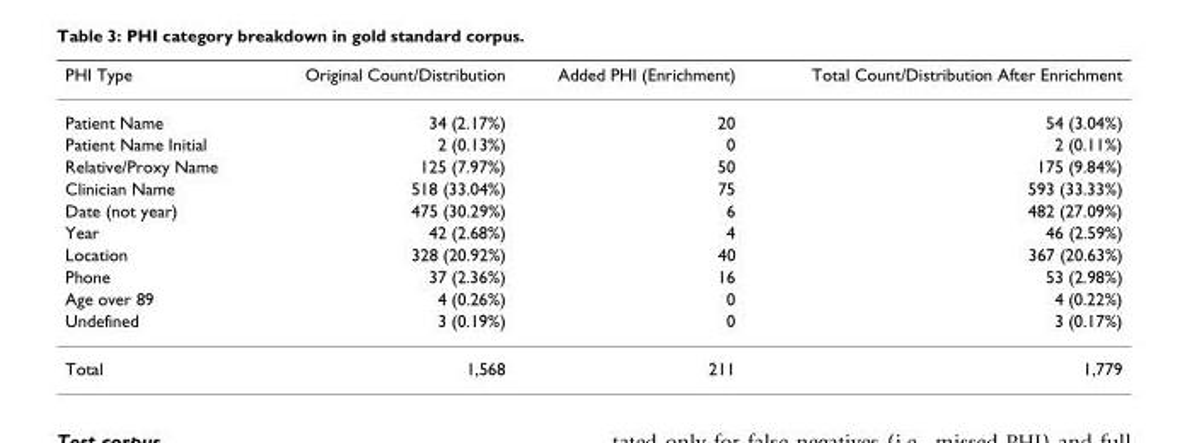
<table><thead><tr><td>PHI Type</td><td>Original Count/Distribution</td><td>Added PHI (Enrichment)</td><td>Total Count/Distribution After Enrichment</td></tr></thead><tbody><tr><td>Patient Name</td><td>34 (2.17%)</td><td>20</td><td>54 (3.04%)</td></tr><tr><td>Patient Name Initial</td><td>2 (0.13%)</td><td>0</td><td>2 (0.11%)</td></tr><tr><td>Relative/Proxy Name</td><td>125 (7.97%)</td><td>50</td><td>175 (9.84%)</td></tr><tr><td>Clinician Name</td><td>518 (33.04%)</td><td>75</td><td>593 (33.33%)</td></tr><tr><td>Date (not year)</td><td>475 (30.29%)</td><td>6</td><td>482 (27.09%)</td></tr><tr><td>Year</td><td>42 (2.68%)</td><td>4</td><td>46 (2.59%)</td></tr><tr><td>Location</td><td>328 (20.92%)</td><td>40</td><td>367 (20.63%)</td></tr><tr><td>Phone</td><td>37 (2.36%)</td><td>16</td><td>53 (2.98%)</td></tr><tr><td>Age over 89</td><td>4 (0.26%)</td><td>0</td><td>4 (0.22%)</td></tr><tr><td>Undefined</td><td>3 (0.19%)</td><td>0</td><td>3 (0.17%)</td></tr><tr><td>Total</td><td>1,568</td><td>211</td><td>1,779</td></tr></tbody></table>